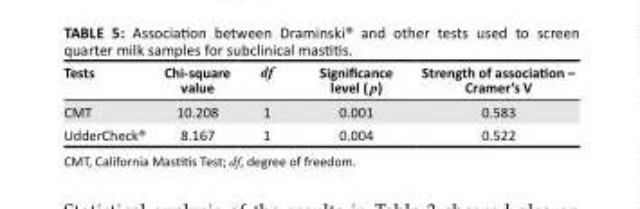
<table><thead><tr><td>Tests</td><td>Chi-square value</td><td>df</td><td>Significance level (p)</td><td>Strength of association – Cramer’s V</td></tr></thead><tbody><tr><td>CMT</td><td>10.208</td><td>1</td><td>0.001</td><td>0.583</td></tr><tr><td>UdderCheck<sup>®</sup></td><td>8.167</td><td>1</td><td>0.004</td><td>0.522</td></tr></tbody></table>